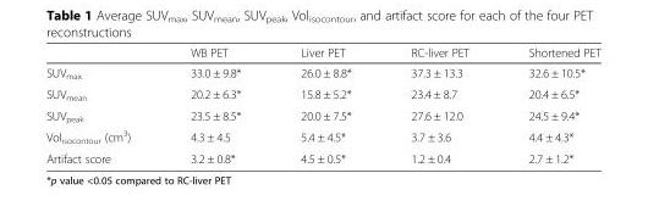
<table><thead><tr><td></td><td>WB PET</td><td>Liver PET</td><td>RC-liver PET</td><td>Shortened PET</td></tr></thead><tbody><tr><td>SUV<sub>max</sub></td><td>33.0 ± 9.8*</td><td>26.0 ± 8.8*</td><td>37.3 ± 13.3</td><td>32.6 ± 10.5*</td></tr><tr><td>SUV<sub>mean</sub></td><td>20.2 ± 6.3*</td><td>15.8 ± 5.2*</td><td>23.4 ± 8.7</td><td>20.4 ± 6.5*</td></tr><tr><td>SUV<sub>peak</sub></td><td>23.5 ± 8.5*</td><td>20.0 ± 7.5*</td><td>27.6 ± 12.0</td><td>24.5 ± 9.4*</td></tr><tr><td>Vol<sub>isocontour</sub> (cm<sup>3</sup>)</td><td>4.3 ± 4.5</td><td>5.4 ± 4.5*</td><td>3.7 ± 3.6</td><td>4.4 ± 4.3*</td></tr><tr><td>Artifact score</td><td>3.2 ± 0.8*</td><td>4.5 ± 0.5*</td><td>1.2 ± 0.4</td><td>2.7 ± 1.2*</td></tr></tbody></table>